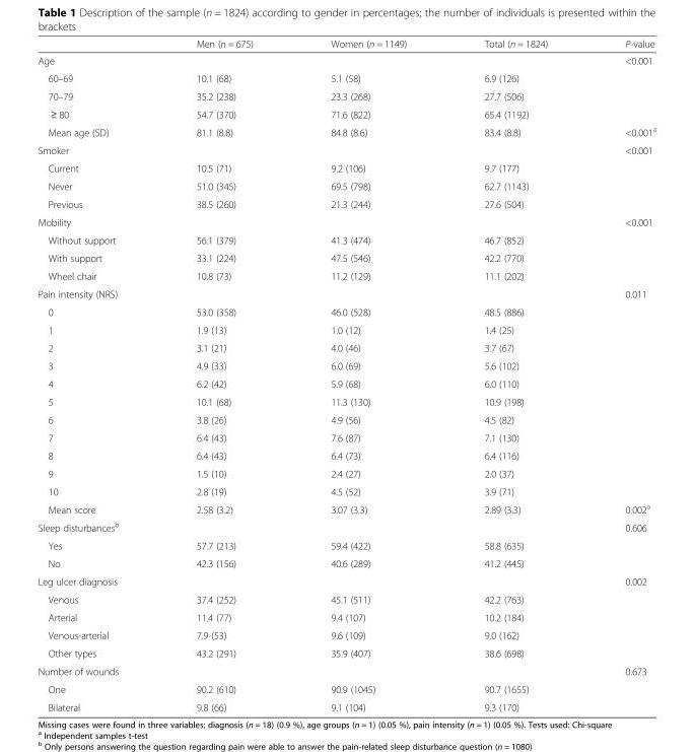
<table><thead><tr><td></td><td>Men (n = 675)</td><td>Women (n = 1149)</td><td>Total (n = 1824)</td><td>P-value</td></tr></thead><tbody><tr><td>Age</td><td></td><td></td><td></td><td>&lt;0.001</td></tr><tr><td>60–69</td><td>10.1 (68)</td><td>5.1 (58)</td><td>6.9 (126)</td><td></td></tr><tr><td>70–79</td><td>35.2 (238)</td><td>23.3 (268)</td><td>27.7 (506)</td><td></td></tr><tr><td>≥ 80</td><td>54.7 (370)</td><td>71.6 (822)</td><td>65.4 (1192)</td><td></td></tr><tr><td>Mean age (SD)</td><td>81.1 (8.8)</td><td>84.8 (8.6)</td><td>83.4 (8.8)</td><td>&lt;0.001<sup>a</sup></td></tr><tr><td>Smoker</td><td></td><td></td><td></td><td>&lt;0.001</td></tr><tr><td>Current</td><td>10.5 (71)</td><td>9.2 (106)</td><td>9.7 (177)</td><td></td></tr><tr><td>Never</td><td>51.0 (345)</td><td>69.5 (798)</td><td>62.7 (1143)</td><td></td></tr><tr><td>Previous</td><td>38.5 (260)</td><td>21.3 (244)</td><td>27.6 (504)</td><td></td></tr><tr><td>Mobility</td><td></td><td></td><td></td><td>&lt;0.001</td></tr><tr><td>Without support</td><td>56.1 (379)</td><td>41.3 (474)</td><td>46.7 (852)</td><td></td></tr><tr><td>With support</td><td>33.1 (224)</td><td>47.5 (546)</td><td>42.2 (770)</td><td></td></tr><tr><td>Wheel chair</td><td>10.8 (73)</td><td>11.2 (129)</td><td>11.1 (202)</td><td></td></tr><tr><td>Pain intensity (NRS)</td><td></td><td></td><td></td><td>0.011</td></tr><tr><td>0</td><td>53.0 (358)</td><td>46.0 (528)</td><td>48.5 (886)</td><td></td></tr><tr><td>1</td><td>1.9 (13)</td><td>1.0 (12)</td><td>1.4 (25)</td><td></td></tr><tr><td>2</td><td>3.1 (21)</td><td>4.0 (46)</td><td>3.7 (67)</td><td></td></tr><tr><td>3</td><td>4.9 (33)</td><td>6.0 (69)</td><td>5.6 (102)</td><td></td></tr><tr><td>4</td><td>6.2 (42)</td><td>5.9 (68)</td><td>6.0 (110)</td><td></td></tr><tr><td>5</td><td>10.1 (68)</td><td>11.3 (130)</td><td>10.9 (198)</td><td></td></tr><tr><td>6</td><td>3.8 (26)</td><td>4.9 (56)</td><td>4.5 (82)</td><td></td></tr><tr><td>7</td><td>6.4 (43)</td><td>7.6 (87)</td><td>7.1 (130)</td><td></td></tr><tr><td>8</td><td>6.4 (43)</td><td>6.4 (73)</td><td>6.4 (116)</td><td></td></tr><tr><td>9</td><td>1.5 (10)</td><td>2.4 (27)</td><td>2.0 (37)</td><td></td></tr><tr><td>10</td><td>2.8 (19)</td><td>4.5 (52)</td><td>3.9 (71)</td><td></td></tr><tr><td>Mean score</td><td>2.58 (3.2)</td><td>3.07 (3.3)</td><td>2.89 (3.3)</td><td>0.002<sup>a</sup></td></tr><tr><td>Sleep disturbances<sup>b</sup></td><td></td><td></td><td></td><td>0.606</td></tr><tr><td>Yes</td><td>57.7 (213)</td><td>59.4 (422)</td><td>58.8 (635)</td><td></td></tr><tr><td>No</td><td>42.3 (156)</td><td>40.6 (289)</td><td>41.2 (445)</td><td></td></tr><tr><td>Leg ulcer diagnosis</td><td></td><td></td><td></td><td>0.002</td></tr><tr><td>Venous</td><td>37.4 (252)</td><td>45.1 (511)</td><td>42.2 (763)</td><td></td></tr><tr><td>Arterial</td><td>11.4 (77)</td><td>9.4 (107)</td><td>10.2 (184)</td><td></td></tr><tr><td>Venous-arterial</td><td>7.9 (53)</td><td>9.6 (109)</td><td>9.0 (162)</td><td></td></tr><tr><td>Other types</td><td>43.2 (291)</td><td>35.9 (407)</td><td>38.6 (698)</td><td></td></tr><tr><td>Number of wounds</td><td></td><td></td><td></td><td>0.673</td></tr><tr><td>One</td><td>90.2 (610)</td><td>90.9 (1045)</td><td>90.7 (1655)</td><td></td></tr><tr><td>Bilateral</td><td>9.8 (66)</td><td>9.1 (104)</td><td>9.3 (170)</td><td></td></tr></tbody></table>